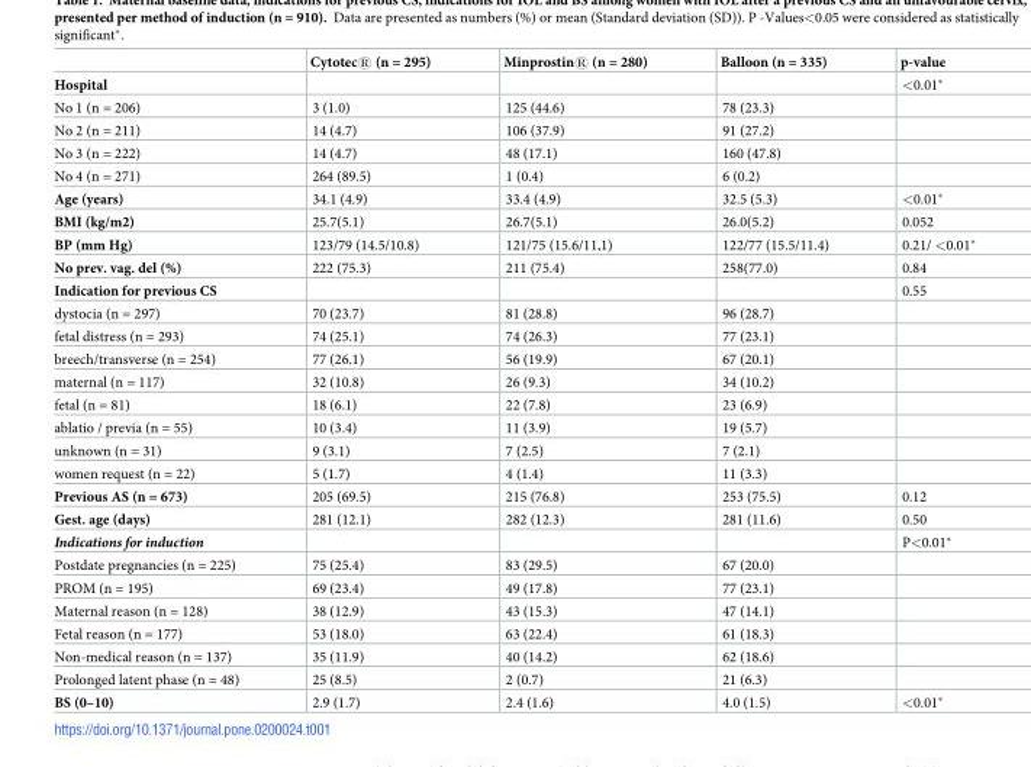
<table><thead><tr><td></td><td>Cytotec® (n = 295)</td><td>Minprostin® (n = 280)</td><td>Balloon (n = 335)</td><td>p-value</td></tr></thead><tbody><tr><td>Hospital</td><td></td><td></td><td></td><td>&lt;0.01*</td></tr><tr><td>No 1 (n = 206)</td><td>3 (1.0)</td><td>125 (44.6)</td><td>78 (23.3)</td><td></td></tr><tr><td>No 2 (n = 211)</td><td>14 (4.7)</td><td>106 (37.9)</td><td>91 (27.2)</td><td></td></tr><tr><td>No 3 (n = 222)</td><td>14 (4.7)</td><td>48 (17.1)</td><td>160 (47.8)</td><td></td></tr><tr><td>No 4 (n = 271)</td><td>264 (89.5)</td><td>1 (0.4)</td><td>6 (0.2)</td><td></td></tr><tr><td>Age (years)</td><td>34.1 (4.9)</td><td>33.4 (4.9)</td><td>32.5 (5.3)</td><td>&lt;0.01*</td></tr><tr><td>BMI (kg/m2)</td><td>25.7(5.1)</td><td>26.7(5.1)</td><td>26.0(5.2)</td><td>0.052</td></tr><tr><td>BP (mm Hg)</td><td>123/79 (14.5/10.8)</td><td>121/75 (15.6/11,1)</td><td>122/77 (15.5/11.4)</td><td>0.21/ &lt;0.01*</td></tr><tr><td>No prev. vag. del (%)</td><td>222 (75.3)</td><td>211 (75.4)</td><td>258(77.0)</td><td>0.84</td></tr><tr><td>Indication for previous CS</td><td></td><td></td><td></td><td>0.55</td></tr><tr><td>dystocia (n = 297)</td><td>70 (23.7)</td><td>81 (28.8)</td><td>96 (28.7)</td><td></td></tr><tr><td>fetal distress (n = 293)</td><td>74 (25.1)</td><td>74 (26.3)</td><td>77 (23.1)</td><td></td></tr><tr><td>breech/transverse (n = 254)</td><td>77 (26.1)</td><td>56 (19.9)</td><td>67 (20.1)</td><td></td></tr><tr><td>maternal (n = 117)</td><td>32 (10.8)</td><td>26 (9.3)</td><td>34 (10.2)</td><td></td></tr><tr><td>fetal (n = 81)</td><td>18 (6.1)</td><td>22 (7.8)</td><td>23 (6.9)</td><td></td></tr><tr><td>ablatio / previa (n = 55)</td><td>10 (3.4)</td><td>11 (3.9)</td><td>19 (5.7)</td><td></td></tr><tr><td>unknown (n = 31)</td><td>9 (3.1)</td><td>7 (2.5)</td><td>7 (2.1)</td><td></td></tr><tr><td>women request (n = 22)</td><td>5 (1.7)</td><td>4 (1.4)</td><td>11 (3.3)</td><td></td></tr><tr><td>Previous AS (n = 673)</td><td>205 (69.5)</td><td>215 (76.8)</td><td>253 (75.5)</td><td>0.12</td></tr><tr><td>Gest. age (days)</td><td>281 (12.1)</td><td>282 (12.3)</td><td>281 (11.6)</td><td>0.50</td></tr><tr><td>Indications for induction</td><td></td><td></td><td></td><td>P&lt;0.01*</td></tr><tr><td>Postdate pregnancies (n = 225)</td><td>75 (25.4)</td><td>83 (29.5)</td><td>67 (20.0)</td><td></td></tr><tr><td>PROM (n = 195)</td><td>69 (23.4)</td><td>49 (17.8)</td><td>77 (23.1)</td><td></td></tr><tr><td>Maternal reason (n = 128)</td><td>38 (12.9)</td><td>43 (15.3)</td><td>47 (14.1)</td><td></td></tr><tr><td>Fetal reason (n = 177)</td><td>53 (18.0)</td><td>63 (22.4)</td><td>61 (18.3)</td><td></td></tr><tr><td>Non-medical reason (n = 137)</td><td>35 (11.9)</td><td>40 (14.2)</td><td>62 (18.6)</td><td></td></tr><tr><td>Prolonged latent phase (n = 48)</td><td>25 (8.5)</td><td>2 (0.7)</td><td>21 (6.3)</td><td></td></tr><tr><td>BS (0–10)</td><td>2.9 (1.7)</td><td>2.4 (1.6)</td><td>4.0 (1.5)</td><td>&lt;0.01*</td></tr></tbody></table>